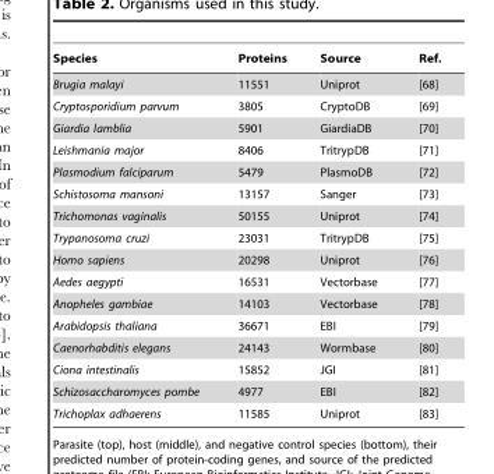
<table><thead><tr><td>Species</td><td>Proteins</td><td>Source</td><td>Ref.</td></tr></thead><tbody><tr><td>Brugia malayi</td><td>11551</td><td>Uniprot</td><td>[68]</td></tr><tr><td>Cryptosporidium parvum</td><td>3805</td><td>CryptoDB</td><td>[69]</td></tr><tr><td>Giardia lamblia</td><td>5901</td><td>GiardiaDB</td><td>[70]</td></tr><tr><td>Leishmania major</td><td>8406</td><td>TritrypDB</td><td>[71]</td></tr><tr><td>Plasmodium falciparum</td><td>5479</td><td>PlasmoDB</td><td>[72]</td></tr><tr><td>Schistosoma mansoni</td><td>13157</td><td>Sanger</td><td>[73]</td></tr><tr><td>Trichomonas vaginalis</td><td>50155</td><td>Uniprot</td><td>[74]</td></tr><tr><td>Trypanosoma cruzi</td><td>23031</td><td>TritrypDB</td><td>[75]</td></tr><tr><td>Homo sapiens</td><td>20298</td><td>Uniprot</td><td>[76]</td></tr><tr><td>Aedes aegypti</td><td>16531</td><td>Vectorbase</td><td>[77]</td></tr><tr><td>Anopheles gambiae</td><td>14103</td><td>Vectorbase</td><td>[78]</td></tr><tr><td>Arabidopsis thaliana</td><td>36671</td><td>EBI</td><td>[79]</td></tr><tr><td>Caenorhabditis elegans</td><td>24143</td><td>Wormbase</td><td>[80]</td></tr><tr><td>Ciona intestinalis</td><td>15852</td><td>JGI</td><td>[81]</td></tr><tr><td>Schizosaccharomyces pombe</td><td>4977</td><td>EBI</td><td>[82]</td></tr><tr><td>Trichoplax adhaerens</td><td>11585</td><td>Uniprot</td><td>[83]</td></tr></tbody></table>